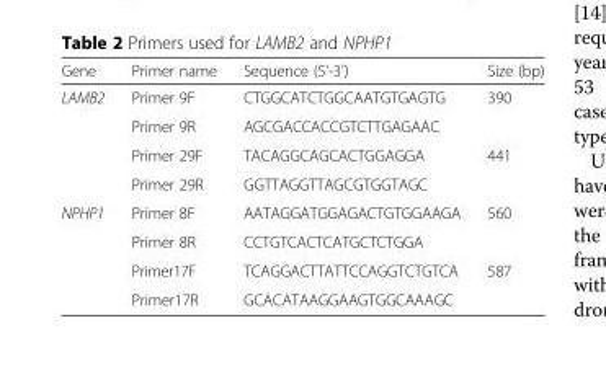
<table><thead><tr><td>Gene</td><td>Primer name</td><td>Sequence (5&#x27;-3&#x27;)</td><td>Size (bp)</td></tr></thead><tbody><tr><td rowspan="4">LAMB2</td><td>Primer 9F</td><td>CTGGCATCTGGCAATGTGAGTG</td><td rowspan="2">390</td></tr><tr><td>Primer 9R</td><td>AGCGACCACCGTCTTGAGAAC</td></tr><tr><td>Primer 29F</td><td>TACAGGCAGCACTGGAGGA</td><td rowspan="2">441</td></tr><tr><td>Primer 29R</td><td>GGTTAGGTTAGCGTGGTAGC</td></tr><tr><td rowspan="4">NPHP1</td><td>Primer 8F</td><td>AATAGGATGGAGACTGTGGAAGA</td><td rowspan="2">560</td></tr><tr><td>Primer 8R</td><td>CCTGTCACTCATGCTCTGGA</td></tr><tr><td>Primer17F</td><td>TCAGGACTTATTCCAGGTCTGTCA</td><td rowspan="2">587</td></tr><tr><td>Primer17R</td><td>GCACATAAGGAAGTGGCAAAGC</td></tr></tbody></table>